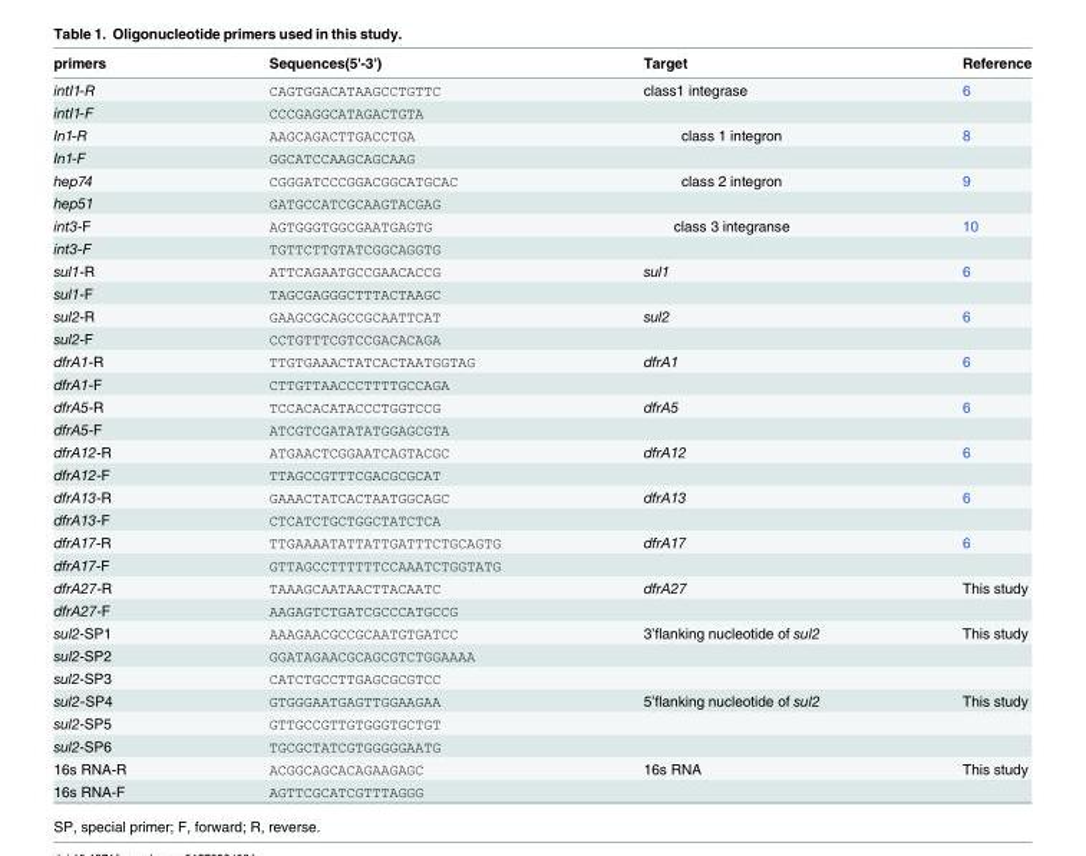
<table><thead><tr><td>primers</td><td>Sequences(5&#x27;-3&#x27;)</td><td>Target</td><td>Reference</td></tr></thead><tbody><tr><td>intI1-R</td><td>CAGTGGACATAAGCCTGTTC</td><td>class1 integrase</td><td>6</td></tr><tr><td>intI1-F</td><td>CCCGAGGCATAGACTGTA</td><td></td><td></td></tr><tr><td>In1-R</td><td>AAGCAGACTTGACCTGA</td><td>class 1 integron</td><td>8</td></tr><tr><td>In1-F</td><td>GGCATCCAAGCAGCAAG</td><td></td><td></td></tr><tr><td>hep74</td><td>CGGGATCCCGGACGGCATGCAC</td><td>class 2 integron</td><td>9</td></tr><tr><td>hep51</td><td>GATGCCATCGCAAGTACGAG</td><td></td><td></td></tr><tr><td>int3-F</td><td>AGTGGGTGGCGAATGAGTG</td><td>class 3 integranse</td><td>10</td></tr><tr><td>int3-F</td><td>TGTTCTTGTATCGGCAGGTG</td><td></td><td></td></tr><tr><td>sul1-R</td><td>ATTCAGAATGCCGAACACCG</td><td>sul1</td><td>6</td></tr><tr><td>sul1-F</td><td>TAGCGAGGGCTTTACTAAGC</td><td></td><td></td></tr><tr><td>sul2-R</td><td>GAAGCGCAGCCGCAATTCAT</td><td>sul2</td><td>6</td></tr><tr><td>sul2-F</td><td>CCTGTTTCGTCCGACACAGA</td><td></td><td></td></tr><tr><td>dfrA1-R</td><td>TTGTGAAACTATCACTAATGGTAG</td><td>dfrA1</td><td>6</td></tr><tr><td>dfrA1-F</td><td>CTTGTTAACCCTTTTGCCAGA</td><td></td><td></td></tr><tr><td>dfrA5-R</td><td>TCCACACATACCCTGGTCCG</td><td>dfrA5</td><td>6</td></tr><tr><td>dfrA5-F</td><td>ATCGTCGATATATGGAGCGTA</td><td></td><td></td></tr><tr><td>dfrA12-R</td><td>ATGAACTCGGAATCAGTACGC</td><td>dfrA12</td><td>6</td></tr><tr><td>dfrA12-F</td><td>TTAGCCGTTTCGACGCGCAT</td><td></td><td></td></tr><tr><td>dfrA13-R</td><td>GAAACTATCACTAATGGCAGC</td><td>dfrA13</td><td>6</td></tr><tr><td>dfrA13-F</td><td>CTCATCTGCTGGCTATCTCA</td><td></td><td></td></tr><tr><td>dfrA17-R</td><td>TTGAAAATATTATTGATTTCTGCAGTG</td><td>dfrA17</td><td>6</td></tr><tr><td>dfrA17-F</td><td>GTTAGCCTTTTTTCCAAATCTGGTATG</td><td></td><td></td></tr><tr><td>dfrA27-R</td><td>TAAAGCAATAACTTACAATC</td><td>dfrA27</td><td>This study</td></tr><tr><td>dfrA27-F</td><td>AAGAGTCTGATCGCCCATGCCG</td><td></td><td></td></tr><tr><td>sul2-SP1</td><td>AAAGAACGCCGCAATGTGATCC</td><td>3’flanking nucleotide of sul2</td><td>This study</td></tr><tr><td>sul2-SP2</td><td>GGATAGAACGCAGCGTCTGGAAAA</td><td></td><td></td></tr><tr><td>sul2-SP3</td><td>CATCTGCCTTGAGCGCGTCC</td><td></td><td></td></tr><tr><td>sul2-SP4</td><td>GTGGGAATGAGTTGGAAGAA</td><td>5’flanking nucleotide of sul2</td><td>This study</td></tr><tr><td>sul2-SP5</td><td>GTTGCCGTTGTGGGTGCTGT</td><td></td><td></td></tr><tr><td>sul2-SP6</td><td>TGCGCTATCGTGGGGGAATG</td><td></td><td></td></tr><tr><td>16s RNA-R</td><td>ACGGCAGCACAGAAGAGC</td><td>16s RNA</td><td>This study</td></tr><tr><td>16s RNA-F</td><td>AGTTCGCATCGTTTAGGG</td><td></td><td></td></tr></tbody></table>